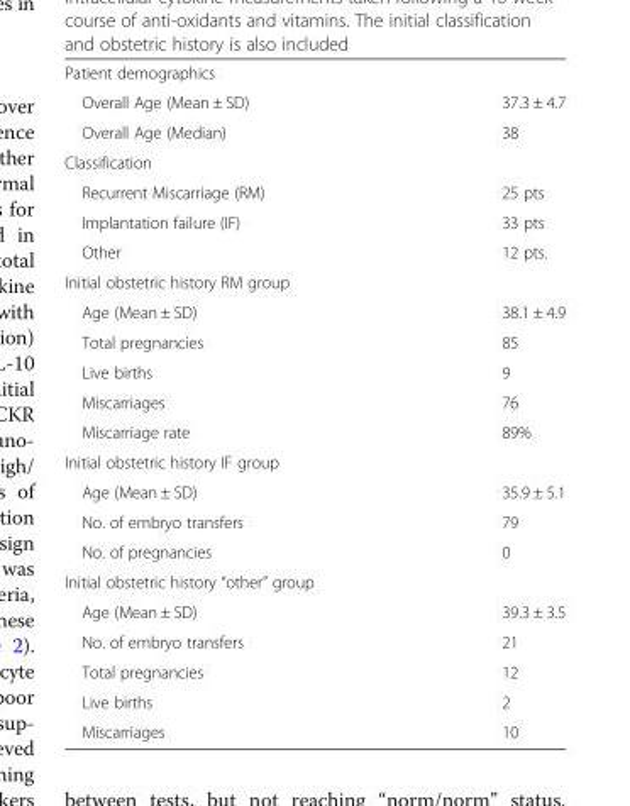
<table><tbody><tr><td colspan="2">Patient demographics</td></tr><tr><td>Overall Age (Mean ± SD)</td><td>37.3 ± 4.7</td></tr><tr><td>Overall Age (Median)</td><td>38</td></tr><tr><td colspan="2">Classification</td></tr><tr><td>Recurrent Miscarriage (RM)</td><td>25 pts</td></tr><tr><td>Implantation failure (IF)</td><td>33 pts</td></tr><tr><td>Other</td><td>12 pts.</td></tr><tr><td colspan="2">Initial obstetric history RM group</td></tr><tr><td>Age (Mean ± SD)</td><td>38.1 ± 4.9</td></tr><tr><td>Total pregnancies</td><td>85</td></tr><tr><td>Live births</td><td>9</td></tr><tr><td>Miscarriages</td><td>76</td></tr><tr><td>Miscarriage rate</td><td>89%</td></tr><tr><td colspan="2">Initial obstetric history IF group</td></tr><tr><td>Age (Mean ± SD)</td><td>35.9 ± 5.1</td></tr><tr><td>No. of embryo transfers</td><td>79</td></tr><tr><td>No. of pregnancies</td><td>0</td></tr><tr><td colspan="2">Initial obstetric history “other” group</td></tr><tr><td>Age (Mean ± SD)</td><td>39.3 ± 3.5</td></tr><tr><td>No. of embryo transfers</td><td>21</td></tr><tr><td>Total pregnancies</td><td>12</td></tr><tr><td>Live births</td><td>2</td></tr><tr><td>Miscarriages</td><td>10</td></tr></tbody></table>